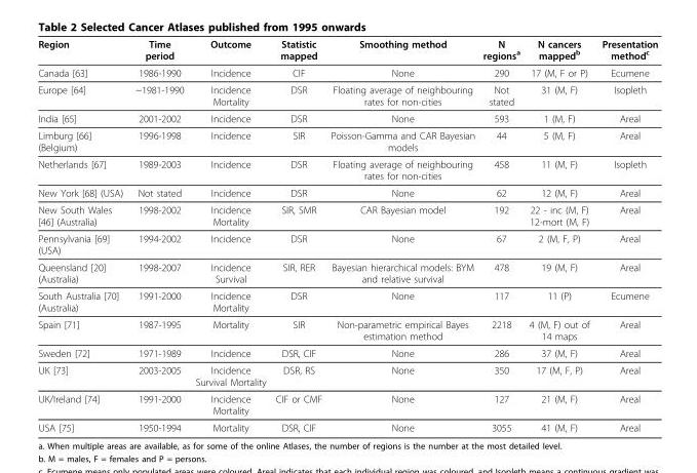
<table><thead><tr><td>Region</td><td>Time period</td><td>Outcome</td><td>Statistic mapped</td><td>Smoothing method</td><td>N regions<sup>a</sup></td><td>N cancers mapped<sup>b</sup></td><td>Presentation method<sup>c</sup></td></tr></thead><tbody><tr><td>Canada [63]</td><td>1986-1990</td><td>Incidence</td><td>CIF</td><td>None</td><td>290</td><td>17 (M, F or P)</td><td>Ecumene</td></tr><tr><td>Europe [64]</td><td>~1981-1990</td><td>Incidence Mortality</td><td>DSR</td><td>Floating average of neighbouring rates for non-cities</td><td>Not stated</td><td>31 (M, F)</td><td>Isopleth</td></tr><tr><td>India [65]</td><td>2001-2002</td><td>Incidence</td><td>DSR</td><td>None</td><td>593</td><td>1 (M, F)</td><td>Areal</td></tr><tr><td>Limburg [66] (Belgium)</td><td>1996-1998</td><td>Incidence</td><td>SIR</td><td>Poisson-Gamma and CAR Bayesian models</td><td>44</td><td>5 (M, F)</td><td>Areal</td></tr><tr><td>Netherlands [67]</td><td>1989-2003</td><td>Incidence</td><td>DSR</td><td>Floating average of neighbouring rates for non-cities</td><td>458</td><td>11 (M, F)</td><td>Isopleth</td></tr><tr><td>New York [68] (USA)</td><td>Not stated</td><td>Incidence</td><td>DSR</td><td>None</td><td>62</td><td>12 (M, F)</td><td>Areal</td></tr><tr><td>New South Wales [46] (Australia)</td><td>1998-2002</td><td>Incidence Mortality</td><td>SIR, SMR</td><td>CAR Bayesian model</td><td>192</td><td>22 - inc (M, F) 12-mort (M, F)</td><td>Areal</td></tr><tr><td>Pennsylvania [69] (USA)</td><td>1994-2002</td><td>Incidence</td><td>DSR</td><td>None</td><td>67</td><td>2 (M, F, P)</td><td>Areal</td></tr><tr><td>Queensland [20] (Australia)</td><td>1998-2007</td><td>Incidence Survival</td><td>SIR, RER</td><td>Bayesian hierarchical models: BYM and relative survival</td><td>478</td><td>19 (M, F)</td><td>Areal</td></tr><tr><td>South Australia [70] (Australia)</td><td>1991-2000</td><td>Incidence Mortality</td><td>DSR</td><td>None</td><td>117</td><td>11 (P)</td><td>Ecumene</td></tr><tr><td>Spain [71]</td><td>1987-1995</td><td>Mortality</td><td>SIR</td><td>Non-parametric empirical Bayes estimation method</td><td>2218</td><td>4 (M, F) out of 14 maps</td><td>Areal</td></tr><tr><td>Sweden [72]</td><td>1971-1989</td><td>Incidence</td><td>DSR, CIF</td><td>None</td><td>286</td><td>37 (M, F)</td><td>Areal</td></tr><tr><td>UK [73]</td><td>2003-2005</td><td>Incidence Survival Mortality</td><td>DSR, RS</td><td>None</td><td>350</td><td>17 (M, F, P)</td><td>Areal</td></tr><tr><td>UK/Ireland [74]</td><td>1991-2000</td><td>Incidence Mortality</td><td>CIF or CMF</td><td>None</td><td>127</td><td>21 (M, F)</td><td>Areal</td></tr><tr><td>USA [75]</td><td>1950-1994</td><td>Mortality</td><td>DSR, CIF</td><td>None</td><td>3055</td><td>41 (M, F)</td><td>Areal</td></tr></tbody></table>